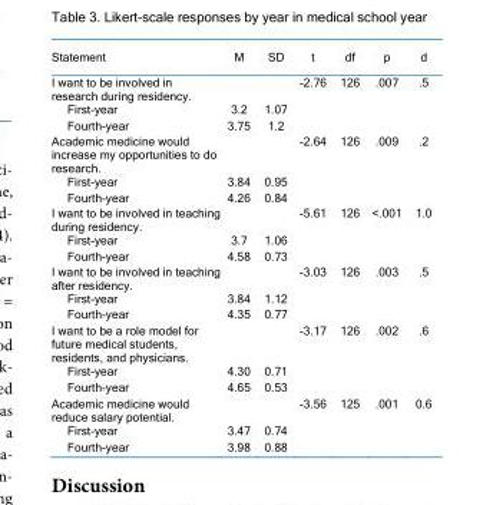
<table><thead><tr><td>Statement</td><td>M</td><td>SD</td><td>t</td><td>df</td><td>p</td><td>d</td></tr></thead><tbody><tr><td>I want to be involved in research during residency.</td><td></td><td></td><td>-2.76</td><td>126</td><td>.007</td><td>.5</td></tr><tr><td>First-year</td><td>3.2</td><td>1.07</td><td></td><td></td><td></td><td></td></tr><tr><td>Fourth-year</td><td>3.75</td><td>1.2</td><td></td><td></td><td></td><td></td></tr><tr><td>Academic medicine would increase my opportunities to do research.</td><td></td><td></td><td>-2.64</td><td>126</td><td>.009</td><td>.2</td></tr><tr><td>First-year</td><td>3.84</td><td>0.95</td><td></td><td></td><td></td><td></td></tr><tr><td>Fourth-year</td><td>4.26</td><td>0.84</td><td></td><td></td><td></td><td></td></tr><tr><td>I want to be involved in teaching during residency.</td><td></td><td></td><td>-5.61</td><td>126</td><td>&lt;.001</td><td>1.0</td></tr><tr><td>First-year</td><td>3.7</td><td>1.06</td><td></td><td></td><td></td><td></td></tr><tr><td>Fourth-year</td><td>4.58</td><td>0.73</td><td></td><td></td><td></td><td></td></tr><tr><td>I want to be involved in teaching after residency.</td><td></td><td></td><td>-3.03</td><td>126</td><td>.003</td><td>.5</td></tr><tr><td>First-year</td><td>3.84</td><td>1.12</td><td></td><td></td><td></td><td></td></tr><tr><td>Fourth-year</td><td>4.35</td><td>0.77</td><td></td><td></td><td></td><td></td></tr><tr><td>I want to be a role model for future medical students, residents, and physicians.</td><td></td><td></td><td>-3.17</td><td>126</td><td>.002</td><td>.6</td></tr><tr><td>First-year</td><td>4.30</td><td>0.71</td><td></td><td></td><td></td><td></td></tr><tr><td>Fourth-year</td><td>4.65</td><td>0.53</td><td></td><td></td><td></td><td></td></tr><tr><td>Academic medicine would reduce salary potential.</td><td></td><td></td><td>-3.56</td><td>125</td><td>.001</td><td>0.6</td></tr><tr><td>First-year</td><td>3.47</td><td>0.74</td><td></td><td></td><td></td><td></td></tr><tr><td>Fourth-year</td><td>3.98</td><td>0.88</td><td></td><td></td><td></td><td></td></tr></tbody></table>